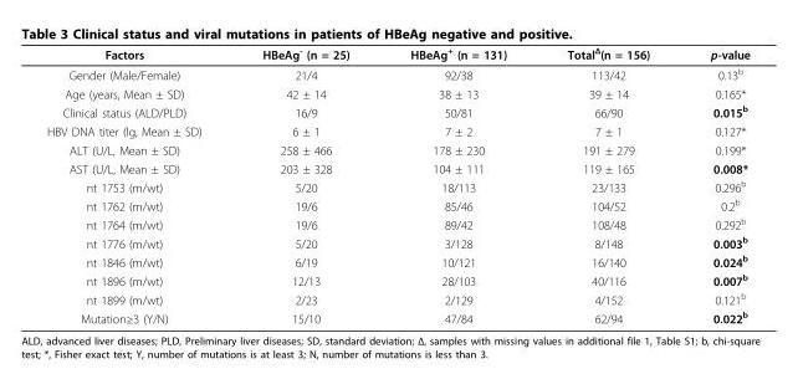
<table><thead><tr><td>Factors</td><td>HBeAg<sup>-</sup> (n = 25)</td><td>HBeAg<sup>+</sup> (n = 131)</td><td>Total<sup>Δ</sup>(n = 156)</td><td>p-value</td></tr></thead><tbody><tr><td>Gender (Male/Female)</td><td>21/4</td><td>92/38</td><td>113/42</td><td>0.13<sup>b</sup></td></tr><tr><td>Age (years, Mean ± SD)</td><td>42 ± 14</td><td>38 ± 13</td><td>39 ± 14</td><td>0.165*</td></tr><tr><td>Clinical status (ALD/PLD)</td><td>16/9</td><td>50/81</td><td>66/90</td><td>0.015<sup>b</sup></td></tr><tr><td>HBV DNA titer (lg, Mean ± SD)</td><td>6 ± 1</td><td>7 ± 2</td><td>7 ± 1</td><td>0.127*</td></tr><tr><td>ALT (U/L, Mean ± SD)</td><td>258 ± 466</td><td>178 ± 230</td><td>191 ± 279</td><td>0.199*</td></tr><tr><td>AST (U/L, Mean ± SD)</td><td>203 ± 328</td><td>104 ± 111</td><td>119 ± 165</td><td>0.008*</td></tr><tr><td>nt 1753 (m/wt)</td><td>5/20</td><td>18/113</td><td>23/133</td><td>0.296<sup>b</sup></td></tr><tr><td>nt 1762 (m/wt)</td><td>19/6</td><td>85/46</td><td>104/52</td><td>0.2<sup>b</sup></td></tr><tr><td>nt 1764 (m/wt)</td><td>19/6</td><td>89/42</td><td>108/48</td><td>0.292<sup>b</sup></td></tr><tr><td>nt 1776 (m/wt)</td><td>5/20</td><td>3/128</td><td>8/148</td><td>0.003<sup>b</sup></td></tr><tr><td>nt 1846 (m/wt)</td><td>6/19</td><td>10/121</td><td>16/140</td><td>0.024<sup>b</sup></td></tr><tr><td>nt 1896 (m/wt)</td><td>12/13</td><td>28/103</td><td>40/116</td><td>0.007<sup>b</sup></td></tr><tr><td>nt 1899 (m/wt)</td><td>2/23</td><td>2/129</td><td>4/152</td><td>0.121<sup>b</sup></td></tr><tr><td>Mutation≥3 (Y/N)</td><td>15/10</td><td>47/84</td><td>62/94</td><td>0.022<sup>b</sup></td></tr></tbody></table>